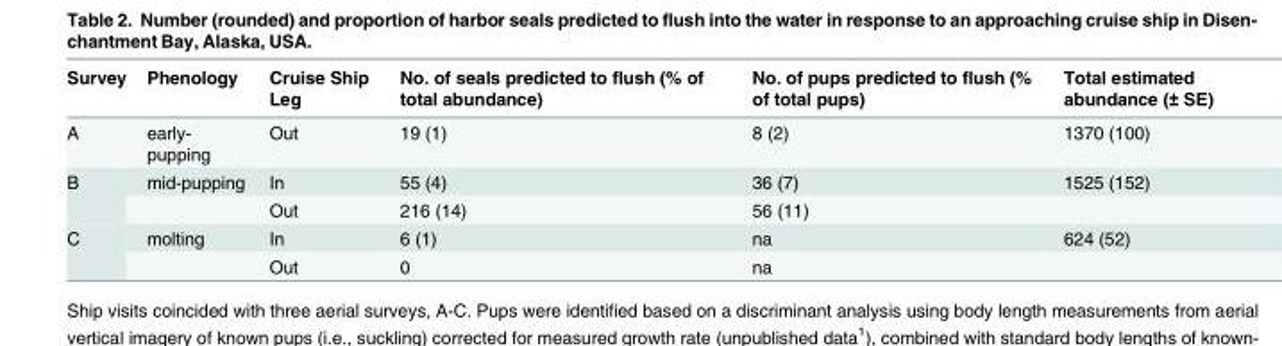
<table><thead><tr><td>Survey</td><td>Phenology</td><td>Cruise Ship Leg</td><td>No. of seals predicted to flush (% of total abundance)</td><td>No. of pups predicted to flush (% of total pups)</td><td>Total estimated abundance (± SE)</td></tr></thead><tbody><tr><td>A</td><td>early- pupping</td><td>Out</td><td>19 (1)</td><td>8 (2)</td><td>1370 (100)</td></tr><tr><td rowspan="2">B</td><td>mid-pupping</td><td>In</td><td>55 (4)</td><td>36 (7)</td><td>1525 (152)</td></tr><tr><td></td><td>Out</td><td>216 (14)</td><td>56 (11)</td><td></td></tr><tr><td rowspan="2">C</td><td>molting</td><td>In</td><td>6 (1)</td><td>na</td><td>624 (52)</td></tr><tr><td></td><td>Out</td><td>0</td><td>na</td><td></td></tr></tbody></table>